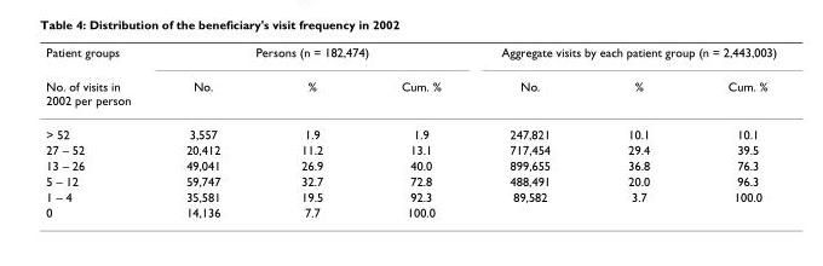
<table><thead><tr><td rowspan="2">Patient groups No. of visits in 2002 per person</td><td colspan="3">Persons (n = 182,474)</td><td colspan="3">Aggregate visits by each patient group (n = 2,443,003)</td></tr><tr><td>No.</td><td>%</td><td>Cum. %</td><td>No.</td><td>%</td><td>Cum. %</td></tr></thead><tbody><tr><td>&gt; 52</td><td>3,557</td><td>1.9</td><td>1.9</td><td>247,821</td><td>10.1</td><td>10.1</td></tr><tr><td>27 – 52</td><td>20,412</td><td>11.2</td><td>13.1</td><td>717,454</td><td>29.4</td><td>39.5</td></tr><tr><td>13 – 26</td><td>49,041</td><td>26.9</td><td>40.0</td><td>899,655</td><td>36.8</td><td>76.3</td></tr><tr><td>5 – 12</td><td>59,747</td><td>32.7</td><td>72.8</td><td>488,491</td><td>20.0</td><td>96.3</td></tr><tr><td>1 – 4</td><td>35,581</td><td>19.5</td><td>92.3</td><td>89,582</td><td>3.7</td><td>100.0</td></tr><tr><td>0</td><td>14,136</td><td>7.7</td><td>100.0</td><td></td><td></td><td></td></tr></tbody></table>